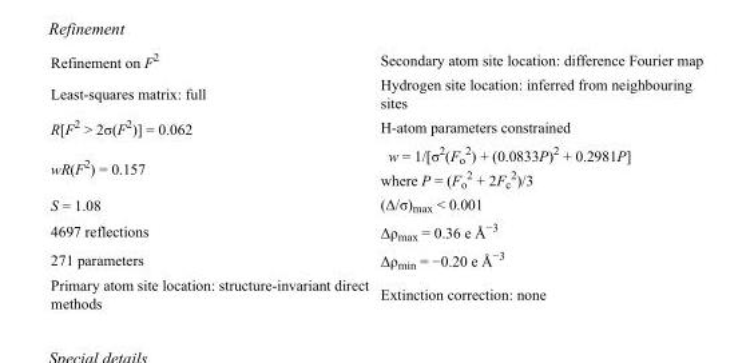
<table><tbody><tr><td>Refinement on F<sup>2</sup></td><td>Secondary atom site location: difference Fourier map</td></tr><tr><td>Least-squares matrix: full</td><td>Hydrogen site location: inferred from neighbouring sites</td></tr><tr><td>R[F<sup>2</sup> &gt; 2σ(F<sup>2</sup>)] = 0.062</td><td>H-atom parameters constrained</td></tr><tr><td>wR(F<sup>2</sup>) = 0.157</td><td>w = 1/[σ<sup>2</sup>(F<sub>o</sub> <sup>2</sup>) + (0.0833P)<sup>2</sup> + 0.2981P] where P = (F<sub>o</sub> <sup>2</sup> + 2F<sub>c</sub> <sup>2</sup>)/3</td></tr><tr><td>S = 1.08</td><td>(Δ/σ)<sub>max</sub> &lt; 0.001</td></tr><tr><td>4697 reflections</td><td>Δρ<sub>max</sub> = 0.36 e Å<sup>−3</sup></td></tr><tr><td>271 parameters</td><td>Δρ<sub>min</sub> = −0.20 e Å<sup>−3</sup></td></tr><tr><td>Primary atom site location: structure-invariant direct methods</td><td>Extinction correction: none</td></tr></tbody></table>